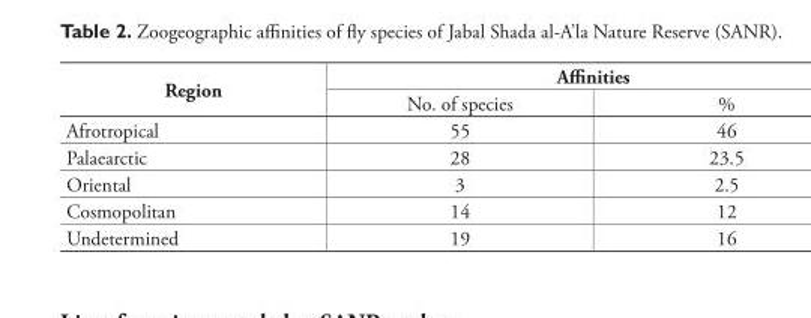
<table><thead><tr><td rowspan="2">Region</td><td colspan="2">Affinities</td></tr><tr><td>No. of species</td><td>%</td></tr></thead><tbody><tr><td>Afrotropical</td><td>55</td><td>46</td></tr><tr><td>Palaearctic</td><td>28</td><td>23.5</td></tr><tr><td>Oriental</td><td>3</td><td>2.5</td></tr><tr><td>Cosmopolitan</td><td>14</td><td>12</td></tr><tr><td>Undetermined</td><td>19</td><td>16</td></tr></tbody></table>